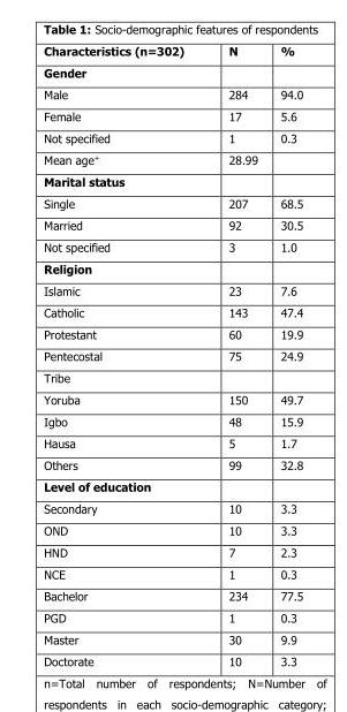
<table><thead><tr><td>Characteristics (n=302)</td><td>N</td><td>%</td></tr></thead><tbody><tr><td colspan="3">Gender</td></tr><tr><td>Male</td><td>284</td><td>94.0</td></tr><tr><td>Female</td><td>17</td><td>5.6</td></tr><tr><td>Not specified</td><td>1</td><td>0.3</td></tr><tr><td>Mean age<sup>+</sup></td><td>28.99</td><td></td></tr><tr><td colspan="3">Marital status</td></tr><tr><td>Single</td><td>207</td><td>68.5</td></tr><tr><td>Married</td><td>92</td><td>30.5</td></tr><tr><td>Not specified</td><td>3</td><td>1.0</td></tr><tr><td colspan="3">Religion</td></tr><tr><td>Islamic</td><td>23</td><td>7.6</td></tr><tr><td>Catholic</td><td>143</td><td>47.4</td></tr><tr><td>Protestant</td><td>60</td><td>19.9</td></tr><tr><td>Pentecostal</td><td>75</td><td>24.9</td></tr><tr><td colspan="3">Tribe</td></tr><tr><td>Yoruba</td><td>150</td><td>49.7</td></tr><tr><td>Igbo</td><td>48</td><td>15.9</td></tr><tr><td>Hausa</td><td>5</td><td>1.7</td></tr><tr><td>Others</td><td>99</td><td>32.8</td></tr><tr><td colspan="3">Level of education</td></tr><tr><td>Secondary</td><td>10</td><td>3.3</td></tr><tr><td>OND</td><td>10</td><td>3.3</td></tr><tr><td>HND</td><td>7</td><td>2.3</td></tr><tr><td>NCE</td><td>1</td><td>0.3</td></tr><tr><td>Bachelor</td><td>234</td><td>77.5</td></tr><tr><td>PGD</td><td>1</td><td>0.3</td></tr><tr><td>Master</td><td>30</td><td>9.9</td></tr><tr><td>Doctorate</td><td>10</td><td>3.3</td></tr></tbody></table>